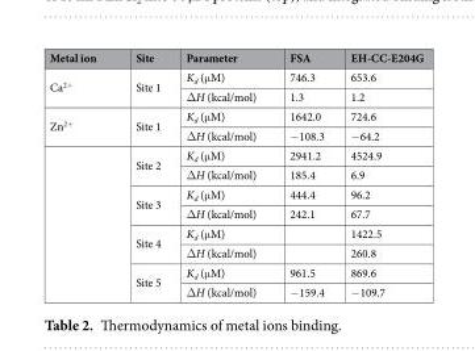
<table><thead><tr><td>Metal ion</td><td>Site</td><td>Parameter</td><td>FSA</td><td>EH-CC-E204G</td></tr></thead><tbody><tr><td rowspan="2">Ca<sup>2+</sup></td><td rowspan="2">Site 1</td><td>K<sub>d</sub> (μM)</td><td>746.3</td><td>653.6</td></tr><tr><td>ΔH (kcal/mol)</td><td>1.3</td><td>1.2</td></tr><tr><td rowspan="10">Zn<sup>2+</sup></td><td rowspan="2">Site 1</td><td>K<sub>d</sub> (μM)</td><td>1642.0</td><td>724.6</td></tr><tr><td>ΔH (kcal/mol)</td><td>−108.3</td><td>−64.2</td></tr><tr><td rowspan="2">Site 2</td><td>K<sub>d</sub> (μM)</td><td>2941.2</td><td>4524.9</td></tr><tr><td>ΔH (kcal/mol)</td><td>185.4</td><td>6.9</td></tr><tr><td rowspan="2">Site 3</td><td>K<sub>d</sub> (μM)</td><td>444.4</td><td>96.2</td></tr><tr><td>ΔH (kcal/mol)</td><td>242.1</td><td>67.7</td></tr><tr><td rowspan="2">Site 4</td><td>K<sub>d</sub> (μM)</td><td></td><td>1422.5</td></tr><tr><td>ΔH (kcal/mol)</td><td></td><td>260.8</td></tr><tr><td rowspan="2">Site 5</td><td>K<sub>d</sub> (μM)</td><td>961.5</td><td>869.6</td></tr><tr><td>ΔH (kcal/mol)</td><td>−159.4</td><td>−109.7</td></tr></tbody></table>